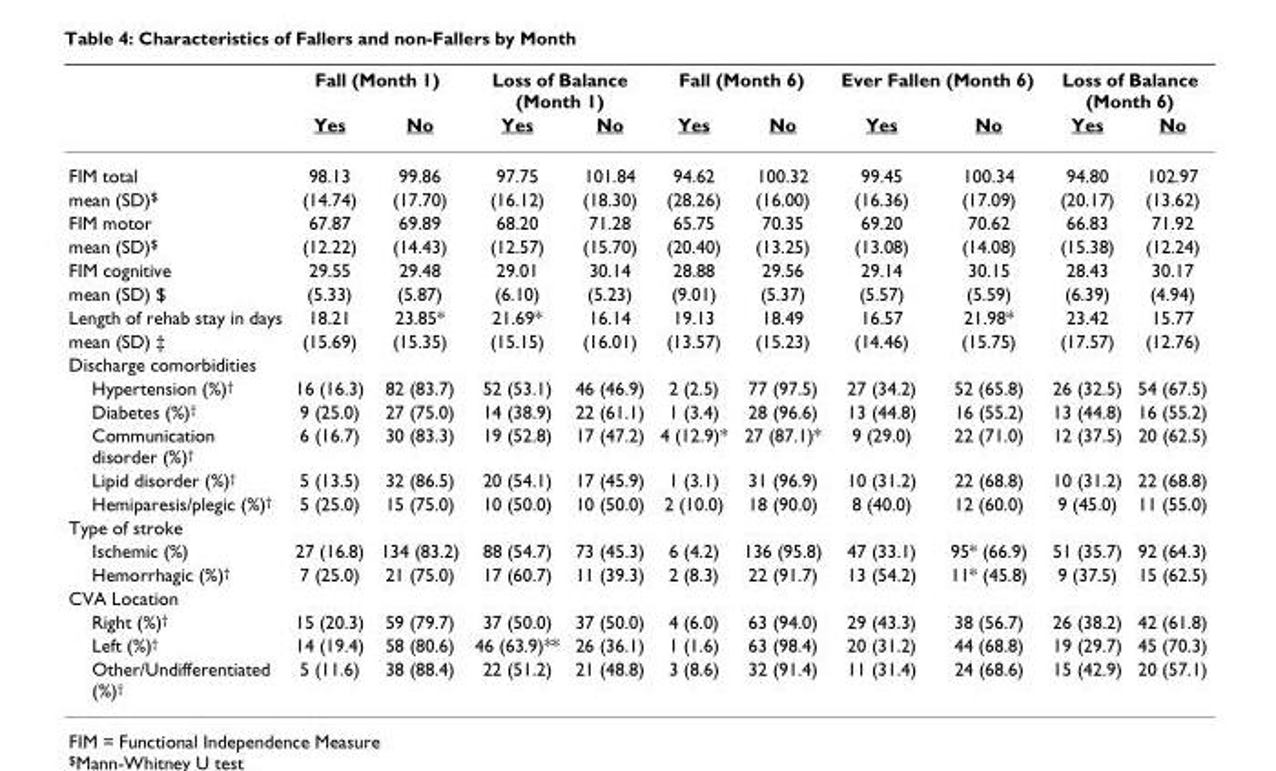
<table><thead><tr><td rowspan="2"></td><td colspan="2">Fall (Month 1)</td><td colspan="2">Loss of Balance (Month 1)</td><td colspan="2">Fall (Month 6)</td><td colspan="2">Ever Fallen (Month 6)</td><td colspan="2">Loss of Balance (Month 6)</td></tr><tr><td>Yes</td><td>No</td><td>Yes</td><td>No</td><td>Yes</td><td>No</td><td>Yes</td><td>No</td><td>Yes</td><td>No</td></tr></thead><tbody><tr><td>FIM total</td><td>98.13</td><td>99.86</td><td>97.75</td><td>101.84</td><td>94.62</td><td>100.32</td><td>99.45</td><td>100.34</td><td>94.80</td><td>102.97</td></tr><tr><td>mean (SD)<sup>$</sup></td><td>(14.74)</td><td>(17.70)</td><td>(16.12)</td><td>(18.30)</td><td>(28.26)</td><td>(16.00)</td><td>(16.36)</td><td>(17.09)</td><td>(20.17)</td><td>(13.62)</td></tr><tr><td>FIM motor</td><td>67.87</td><td>69.89</td><td>68.20</td><td>71.28</td><td>65.75</td><td>70.35</td><td>69.20</td><td>70.62</td><td>66.83</td><td>71.92</td></tr><tr><td>mean (SD)<sup>$</sup></td><td>(12.22)</td><td>(14.43)</td><td>(12.57)</td><td>(15.70)</td><td>(20.40)</td><td>(13.25)</td><td>(13.08)</td><td>(14.08)</td><td>(15.38)</td><td>(12.24)</td></tr><tr><td>FIM cognitive</td><td>29.55</td><td>29.48</td><td>29.01</td><td>30.14</td><td>28.88</td><td>29.56</td><td>29.14</td><td>30.15</td><td>28.43</td><td>30.17</td></tr><tr><td>mean (SD) $</td><td>(5.33)</td><td>(5.87)</td><td>(6.10)</td><td>(5.23)</td><td>(9.01)</td><td>(5.37)</td><td>(5.57)</td><td>(5.59)</td><td>(6.39)</td><td>(4.94)</td></tr><tr><td>Length of rehab stay in days</td><td>18.21</td><td>23.85*</td><td>21.69*</td><td>16.14</td><td>19.13</td><td>18.49</td><td>16.57</td><td>21.98*</td><td>23.42</td><td>15.77</td></tr><tr><td>mean (SD) ‡</td><td>(15.69)</td><td>(15.35)</td><td>(15.15)</td><td>(16.01)</td><td>(13.57)</td><td>(15.23)</td><td>(14.46)</td><td>(15.75)</td><td>(17.57)</td><td>(12.76)</td></tr><tr><td colspan="11">Discharge comorbidities</td></tr><tr><td>Hypertension (%)<sup>†</sup></td><td>16 (16.3)</td><td>82 (83.7)</td><td>52 (53.1)</td><td>46 (46.9)</td><td>2 (2.5)</td><td>77 (97.5)</td><td>27 (34.2)</td><td>52 (65.8)</td><td>26 (32.5)</td><td>54 (67.5)</td></tr><tr><td>Diabetes (%)<sup>†</sup></td><td>9 (25.0)</td><td>27 (75.0)</td><td>14 (38.9)</td><td>22 (61.1)</td><td>1 (3.4)</td><td>28 (96.6)</td><td>13 (44.8)</td><td>16 (55.2)</td><td>13 (44.8)</td><td>16 (55.2)</td></tr><tr><td>Communication disorder (%)<sup>†</sup></td><td>6 (16.7)</td><td>30 (83.3)</td><td>19 (52.8)</td><td>17 (47.2)</td><td>4 (12.9)*</td><td>27 (87.1)*</td><td>9 (29.0)</td><td>22 (71.0)</td><td>12 (37.5)</td><td>20 (62.5)</td></tr><tr><td>Lipid disorder (%)<sup>†</sup></td><td>5 (13.5)</td><td>32 (86.5)</td><td>20 (54.1)</td><td>17 (45.9)</td><td>1 (3.1)</td><td>31 (96.9)</td><td>10 (31.2)</td><td>22 (68.8)</td><td>10 (31.2)</td><td>22 (68.8)</td></tr><tr><td>Hemiparesis/plegic (%)<sup>†</sup></td><td>5 (25.0)</td><td>15 (75.0)</td><td>10 (50.0)</td><td>10 (50.0)</td><td>2 (10.0)</td><td>18 (90.0)</td><td>8 (40.0)</td><td>12 (60.0)</td><td>9 (45.0)</td><td>11 (55.0)</td></tr><tr><td colspan="11">Type of stroke</td></tr><tr><td>Ischemic (%)</td><td>27 (16.8)</td><td>134 (83.2)</td><td>88 (54.7)</td><td>73 (45.3)</td><td>6 (4.2)</td><td>136 (95.8)</td><td>47 (33.1)</td><td>95* (66.9)</td><td>51 (35.7)</td><td>92 (64.3)</td></tr><tr><td>Hemorrhagic (%)<sup>†</sup></td><td>7 (25.0)</td><td>21 (75.0)</td><td>17 (60.7)</td><td>11 (39.3)</td><td>2 (8.3)</td><td>22 (91.7)</td><td>13 (54.2)</td><td>11* (45.8)</td><td>9 (37.5)</td><td>15 (62.5)</td></tr><tr><td colspan="11">CVA Location</td></tr><tr><td>Right (%)<sup>†</sup></td><td>15 (20.3)</td><td>59 (79.7)</td><td>37 (50.0)</td><td>37 (50.0)</td><td>4 (6.0)</td><td>63 (94.0)</td><td>29 (43.3)</td><td>38 (56.7)</td><td>26 (38.2)</td><td>42 (61.8)</td></tr><tr><td>Left (%)<sup>†</sup></td><td>14 (19.4)</td><td>58 (80.6)</td><td>46 (63.9)**</td><td>26 (36.1)</td><td>1 (1.6)</td><td>63 (98.4)</td><td>20 (31.2)</td><td>44 (68.8)</td><td>19 (29.7)</td><td>45 (70.3)</td></tr><tr><td>Other/Undifferentiated (%)<sup>†</sup></td><td>5 (11.6)</td><td>38 (88.4)</td><td>22 (51.2)</td><td>21 (48.8)</td><td>3 (8.6)</td><td>32 (91.4)</td><td>11 (31.4)</td><td>24 (68.6)</td><td>15 (42.9)</td><td>20 (57.1)</td></tr></tbody></table>